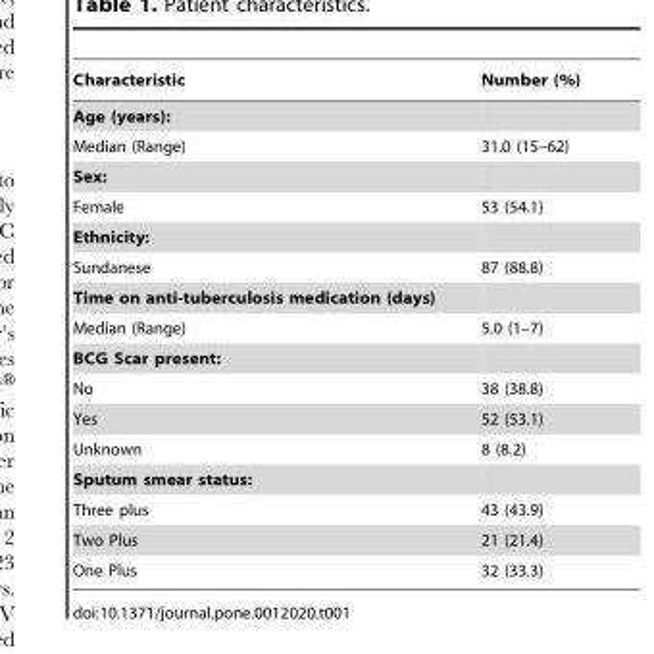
<table><thead><tr><td>Characteristic</td><td>Number (%)</td></tr></thead><tbody><tr><td colspan="2">Age (years):</td></tr><tr><td>Median (Range)</td><td>31.0 (15–62)</td></tr><tr><td colspan="2">Sex:</td></tr><tr><td>Female</td><td>53 (54.1)</td></tr><tr><td colspan="2">Ethnicity:</td></tr><tr><td>Sundanese</td><td>87 (88.8)</td></tr><tr><td colspan="2">Time on anti-tuberculosis medication (days)</td></tr><tr><td>Median (Range)</td><td>5.0 (1–7)</td></tr><tr><td colspan="2">BCG Scar present:</td></tr><tr><td>No</td><td>38 (38.8)</td></tr><tr><td>Yes</td><td>52 (53.1)</td></tr><tr><td>Unknown</td><td>8 (8.2)</td></tr><tr><td colspan="2">Sputum smear status:</td></tr><tr><td>Three plus</td><td>43 (43.9)</td></tr><tr><td>Two Plus</td><td>21 (21.4)</td></tr><tr><td>One Plus</td><td>32 (33.3)</td></tr></tbody></table>